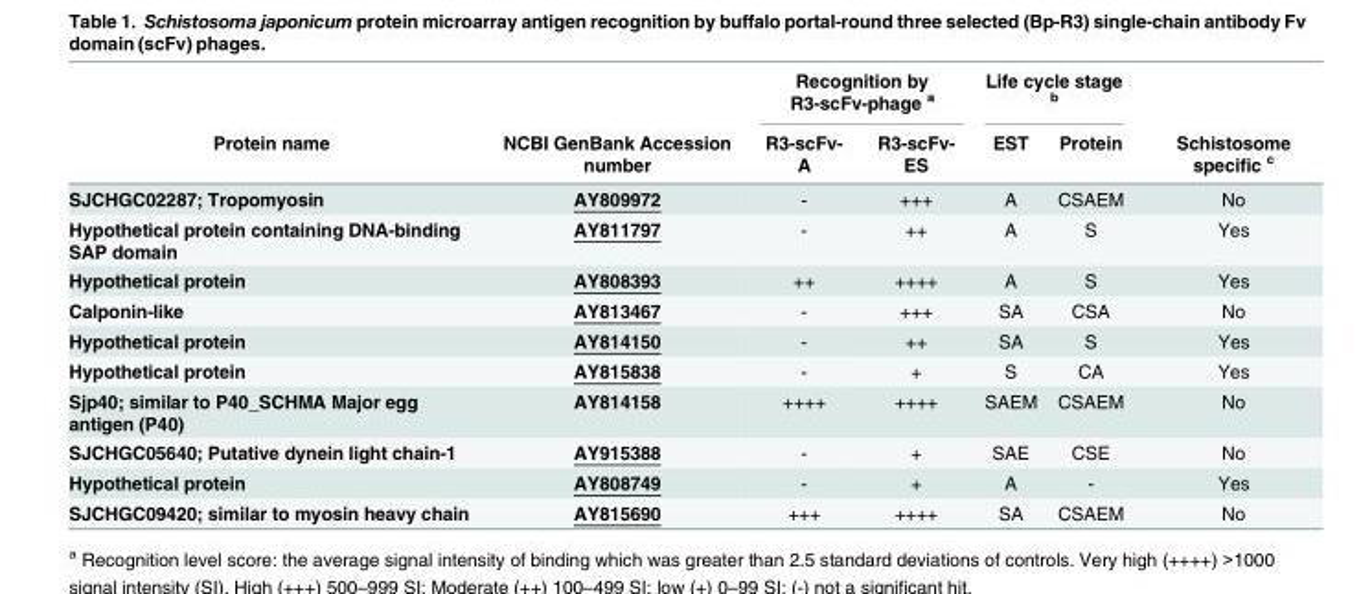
<table><thead><tr><td rowspan="2">Protein name</td><td rowspan="2">NCBI GenBank Accession number</td><td colspan="2">Recognition by R3-scFv-phage <sup>a</sup></td><td colspan="2">Life cycle stage <sup>b</sup></td><td rowspan="2">Schistosome specific <sup>c</sup></td></tr><tr><td>R3-scFv- A</td><td>R3-scFv- ES</td><td>EST</td><td>Protein</td></tr></thead><tbody><tr><td>SJCHGC02287; Tropomyosin</td><td>AY809972</td><td>-</td><td>+++</td><td>A</td><td>CSAEM</td><td>No</td></tr><tr><td>Hypothetical protein containing DNA-binding SAP domain</td><td>AY811797</td><td>-</td><td>++</td><td>A</td><td>S</td><td>Yes</td></tr><tr><td>Hypothetical protein</td><td>AY808393</td><td>++</td><td>++++</td><td>A</td><td>S</td><td>Yes</td></tr><tr><td>Calponin-like</td><td>AY813467</td><td>-</td><td>+++</td><td>SA</td><td>CSA</td><td>No</td></tr><tr><td>Hypothetical protein</td><td>AY814150</td><td>-</td><td>++</td><td>SA</td><td>S</td><td>Yes</td></tr><tr><td>Hypothetical protein</td><td>AY815838</td><td>-</td><td>+</td><td>S</td><td>CA</td><td>Yes</td></tr><tr><td>Sjp40; similar to P40_SCHMA Major egg antigen (P40)</td><td>AY814158</td><td>++++</td><td>++++</td><td>SAEM</td><td>CSAEM</td><td>No</td></tr><tr><td>SJCHGC05640; Putative dynein light chain-1</td><td>AY915388</td><td>-</td><td>+</td><td>SAE</td><td>CSE</td><td>No</td></tr><tr><td>Hypothetical protein</td><td>AY808749</td><td>-</td><td>+</td><td>A</td><td>-</td><td>Yes</td></tr><tr><td>SJCHGC09420; similar to myosin heavy chain</td><td>AY815690</td><td>+++</td><td>++++</td><td>SA</td><td>CSAEM</td><td>No</td></tr></tbody></table>